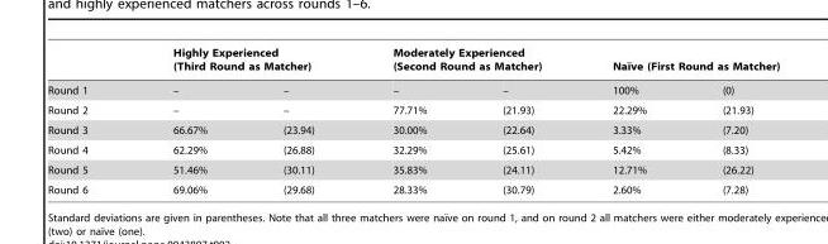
<table><thead><tr><td rowspan="2">Round 1</td><td colspan="2">Highly Experienced (Third Round as Matcher)</td><td colspan="2">Moderately Experienced (Second Round as Matcher)</td><td colspan="2">Naı¨ve (First Round as Matcher)</td></tr><tr><td>–</td><td>–</td><td>–</td><td>–</td><td>100%</td><td>(0)</td></tr></thead><tbody><tr><td>Round 2</td><td>–</td><td>–</td><td>77.71%</td><td>(21.93)</td><td>22.29%</td><td>(21.93)</td></tr><tr><td>Round 3</td><td>66.67%</td><td>(23.94)</td><td>30.00%</td><td>(22.64)</td><td>3.33%</td><td>(7.20)</td></tr><tr><td>Round 4</td><td>62.29%</td><td>(26.88)</td><td>32.29%</td><td>(25.61)</td><td>5.42%</td><td>(8.33)</td></tr><tr><td>Round 5</td><td>51.46%</td><td>(30.11)</td><td>35.83%</td><td>(24.11)</td><td>12.71%</td><td>(26.22)</td></tr><tr><td>Round 6</td><td>69.06%</td><td>(29.68)</td><td>28.33%</td><td>(30.79)</td><td>2.60%</td><td>(7.28)</td></tr></tbody></table>